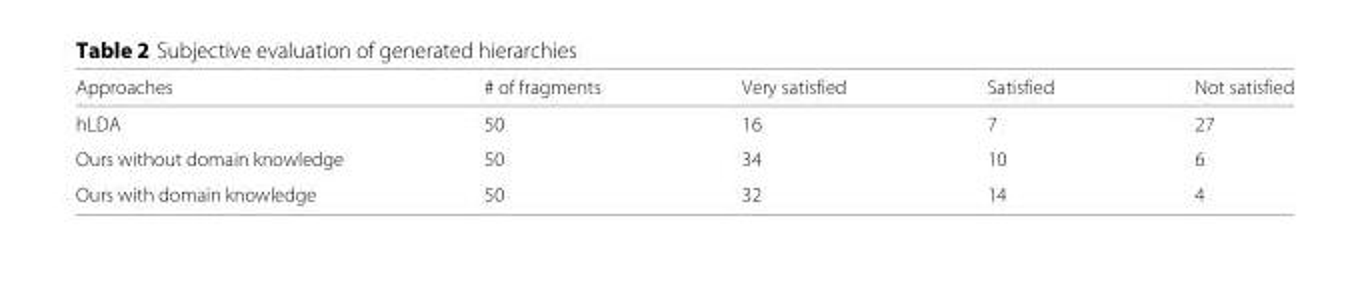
<table><thead><tr><td>Approaches</td><td># of fragments</td><td>Very satisfied</td><td>Satisfied</td><td>Not satisfied</td></tr></thead><tbody><tr><td>hLDA</td><td>50</td><td>16</td><td>7</td><td>27</td></tr><tr><td>Ours without domain knowledge</td><td>50</td><td>34</td><td>10</td><td>6</td></tr><tr><td>Ours with domain knowledge</td><td>50</td><td>32</td><td>14</td><td>4</td></tr></tbody></table>